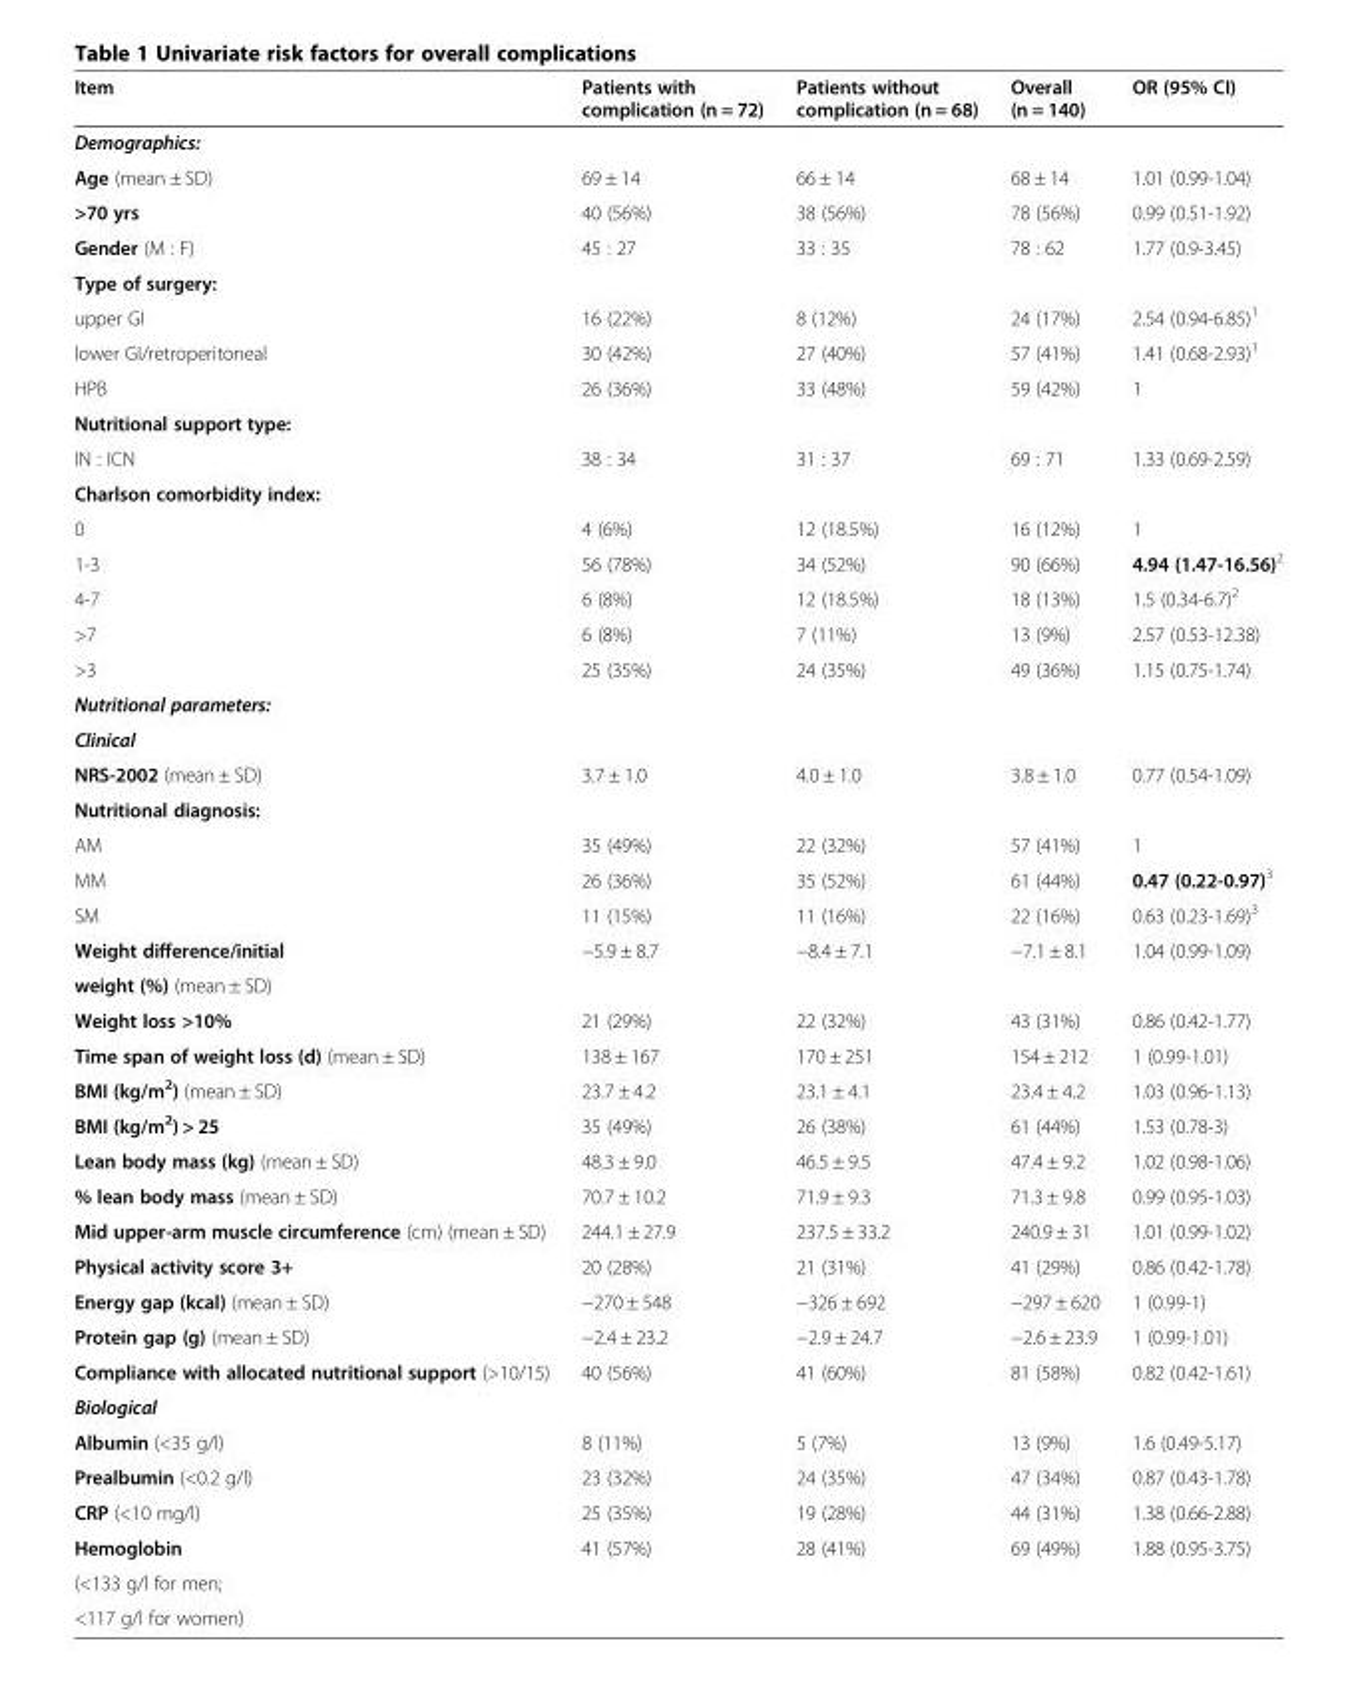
<table><thead><tr><td>Item</td><td>Patients with complication (n = 72)</td><td>Patients without complication (n = 68)</td><td>Overall (n = 140)</td><td>OR (95% CI)</td></tr></thead><tbody><tr><td colspan="5">Demographics:</td></tr><tr><td>Age (mean ± SD)</td><td>69 ± 14</td><td>66 ± 14</td><td>68 ± 14</td><td>1.01 (0.99-1.04)</td></tr><tr><td>&gt;70 yrs</td><td>40 (56%)</td><td>38 (56%)</td><td>78 (56%)</td><td>0.99 (0.51-1.92)</td></tr><tr><td>Gender (M : F)</td><td>45 : 27</td><td>33 : 35</td><td>78 : 62</td><td>1.77 (0.9-3.45)</td></tr><tr><td colspan="5">Type of surgery:</td></tr><tr><td>upper GI</td><td>16 (22%)</td><td>8 (12%)</td><td>24 (17%)</td><td>2.54 (0.94-6.85)<sup>1</sup></td></tr><tr><td>lower GI/retroperitoneal</td><td>30 (42%)</td><td>27 (40%)</td><td>57 (41%)</td><td>1.41 (0.68-2.93)<sup>1</sup></td></tr><tr><td>HPB</td><td>26 (36%)</td><td>33 (48%)</td><td>59 (42%)</td><td>1</td></tr><tr><td colspan="5">Nutritional support type:</td></tr><tr><td>IN : ICN</td><td>38 : 34</td><td>31 : 37</td><td>69 : 71</td><td>1.33 (0.69-2.59)</td></tr><tr><td colspan="5">Charlson comorbidity index:</td></tr><tr><td>0</td><td>4 (6%)</td><td>12 (18.5%)</td><td>16 (12%)</td><td>1</td></tr><tr><td>1-3</td><td>56 (78%)</td><td>34 (52%)</td><td>90 (66%)</td><td>4.94 (1.47-16.56)<sup>2</sup></td></tr><tr><td>4-7</td><td>6 (8%)</td><td>12 (18.5%)</td><td>18 (13%)</td><td>1.5 (0.34-6.7)<sup>2</sup></td></tr><tr><td>&gt;7</td><td>6 (8%)</td><td>7 (11%)</td><td>13 (9%)</td><td>2.57 (0.53-12.38)</td></tr><tr><td>&gt;3</td><td>25 (35%)</td><td>24 (35%)</td><td>49 (36%)</td><td>1.15 (0.75-1.74)</td></tr><tr><td colspan="5">Nutritional parameters:</td></tr><tr><td colspan="5">Clinical</td></tr><tr><td>NRS-2002 (mean ± SD)</td><td>3.7 ± 1.0</td><td>4.0 ± 1.0</td><td>3.8 ± 1.0</td><td>0.77 (0.54-1.09)</td></tr><tr><td colspan="5">Nutritional diagnosis:</td></tr><tr><td>AM</td><td>35 (49%)</td><td>22 (32%)</td><td>57 (41%)</td><td>1</td></tr><tr><td>MM</td><td>26 (36%)</td><td>35 (52%)</td><td>61 (44%)</td><td>0.47 (0.22-0.97)<sup>3</sup></td></tr><tr><td>SM</td><td>11 (15%)</td><td>11 (16%)</td><td>22 (16%)</td><td>0.63 (0.23-1.69)<sup>3</sup></td></tr><tr><td>Weight difference/initial</td><td>−5.9 ± 8.7</td><td>−8.4 ± 7.1</td><td>−7.1 ± 8.1</td><td>1.04 (0.99-1.09)</td></tr><tr><td colspan="5">weight (%) (mean ± SD)</td></tr><tr><td>Weight loss &gt;10%</td><td>21 (29%)</td><td>22 (32%)</td><td>43 (31%)</td><td>0.86 (0.42-1.77)</td></tr><tr><td>Time span of weight loss (d) (mean ± SD)</td><td>138 ± 167</td><td>170 ± 251</td><td>154 ± 212</td><td>1 (0.99-1.01)</td></tr><tr><td>BMI (kg/m<sup>2</sup>) (mean ± SD)</td><td>23.7 ± 4.2</td><td>23.1 ± 4.1</td><td>23.4 ± 4.2</td><td>1.03 (0.96-1.13)</td></tr><tr><td>BMI (kg/m<sup>2</sup>) &gt; 25</td><td>35 (49%)</td><td>26 (38%)</td><td>61 (44%)</td><td>1.53 (0.78-3)</td></tr><tr><td>Lean body mass (kg) (mean ± SD)</td><td>48.3 ± 9.0</td><td>46.5 ± 9.5</td><td>47.4 ± 9.2</td><td>1.02 (0.98-1.06)</td></tr><tr><td>% lean body mass (mean ± SD)</td><td>70.7 ± 10.2</td><td>71.9 ± 9.3</td><td>71.3 ± 9.8</td><td>0.99 (0.95-1.03)</td></tr><tr><td>Mid upper-arm muscle circumference (cm) (mean ± SD)</td><td>244.1 ± 27.9</td><td>237.5 ± 33.2</td><td>240.9 ± 31</td><td>1.01 (0.99-1.02)</td></tr><tr><td>Physical activity score 3+</td><td>20 (28%)</td><td>21 (31%)</td><td>41 (29%)</td><td>0.86 (0.42-1.78)</td></tr><tr><td>Energy gap (kcal) (mean ± SD)</td><td>−270 ± 548</td><td>−326 ± 692</td><td>−297 ± 620</td><td>1 (0.99-1)</td></tr><tr><td>Protein gap (g) (mean ± SD)</td><td>−2.4 ± 23.2</td><td>−2.9 ± 24.7</td><td>−2.6 ± 23.9</td><td>1 (0.99-1.01)</td></tr><tr><td>Compliance with allocated nutritional support (&gt;10/15)</td><td>40 (56%)</td><td>41 (60%)</td><td>81 (58%)</td><td>0.82 (0.42-1.61)</td></tr><tr><td colspan="5">Biological</td></tr><tr><td>Albumin (&lt;35 g/l)</td><td>8 (11%)</td><td>5 (7%)</td><td>13 (9%)</td><td>1.6 (0.49-5.17)</td></tr><tr><td>Prealbumin (&lt;0.2 g/l)</td><td>23 (32%)</td><td>24 (35%)</td><td>47 (34%)</td><td>0.87 (0.43-1.78)</td></tr><tr><td>CRP (&lt;10 mg/l)</td><td>25 (35%)</td><td>19 (28%)</td><td>44 (31%)</td><td>1.38 (0.66-2.88)</td></tr><tr><td>Hemoglobin</td><td>41 (57%)</td><td>28 (41%)</td><td>69 (49%)</td><td>1.88 (0.95-3.75)</td></tr><tr><td colspan="5">(&lt;133 g/l for men;</td></tr><tr><td>&lt;117 g/l for women)</td><td></td><td></td><td></td><td></td></tr></tbody></table>